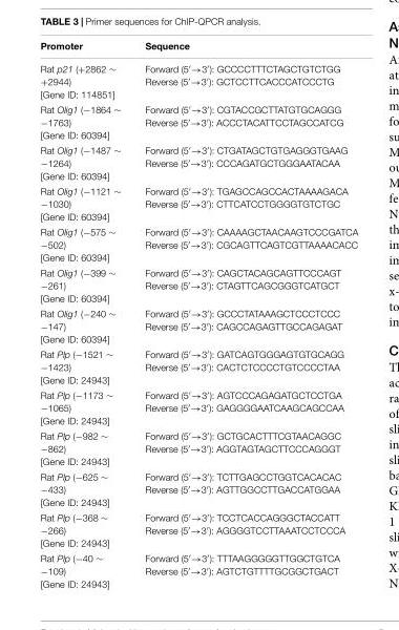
<table><thead><tr><td>Promoter</td><td>Sequence</td></tr></thead><tbody><tr><td>Rat p21 (+2862 ∼ +2944) [Gene ID: 114851]</td><td>Forward (5′→3′): GCCCCTTTCTAGCTGTCTGG Reverse (5′→3′): GCTCCTTCACCCATCCCTG</td></tr><tr><td>Rat Olig1 (−1864 ∼ −1763) [Gene ID: 60394]</td><td>Forward (5′→3′): CGTACCGCTTATGTGCAGGG Reverse (5′→3′): ACCCTACATTCCTAGCCATCG</td></tr><tr><td>Rat Olig1 (−1487 ∼ −1264) [Gene ID: 60394]</td><td>Forward (5′→3′): CTGATAGCTGTGAGGGTGAAG Reverse (5′→3′): CCCAGATGCTGGGAATACAA</td></tr><tr><td>Rat Olig1 (−1121 ∼ −1030) [Gene ID: 60394]</td><td>Forward (5′→3′): TGAGCCAGCCACTAAAAGACA Reverse (5′→3′): CTTCATCCTGGGGTGTCTGC</td></tr><tr><td>Rat Olig1 (−575 ∼ −502) [Gene ID: 60394]</td><td>Forward (5′→3′): CAAAAGCTAACAAGTCCCGATCA Reverse (5′→3′): CGCAGTTCAGTCGTTAAAACACC</td></tr><tr><td>Rat Olig1 (−399 ∼ −261) [Gene ID: 60394]</td><td>Forward (5′→3′): CAGCTACAGCAGTTCCCAGT Reverse (5′→3′): CTAGTTCAGCGGGTCATGCT</td></tr><tr><td>Rat Olig1 (−240 ∼ −147) [Gene ID: 60394]</td><td>Forward (5′→3′): GCCCTATAAAGCTCCCTCCC Reverse (5′→3′): CAGCCAGAGTTGCCAGAGAT</td></tr><tr><td>Rat Plp (−1521 ∼ −1423) [Gene ID: 24943]</td><td>Forward (5′→3′): GATCAGTGGGAGTGTGCAGG Reverse (5′→3′): CACTCTCCCCTGTCCCCTAA</td></tr><tr><td>Rat Plp (−1173 ∼ −1065) [Gene ID: 24943]</td><td>Forward (5′→3′): AGTCCCAGAGATGCTCCTGA Reverse (5′→3′): GAGGGGAATCAAGCAGCCAA</td></tr><tr><td>Rat Plp (−982 ∼ −862) [Gene ID: 24943]</td><td>Forward (5′→3′): GCTGCACTTTCGTAACAGGC Reverse (5′→3′): AGGTAGTAGCTTCCCAGGGT</td></tr><tr><td>Rat Plp (−625 ∼ −433) [Gene ID: 24943]</td><td>Forward (5′→3′): TCTTGAGCCTGGTCACACAC Reverse (5′→3′): AGTTGGCCTTGACCATGGAA</td></tr><tr><td>Rat Plp (−368 ∼ −266) [Gene ID: 24943]</td><td>Forward (5′→3′): TCCTCACCAGGGCTACCATT Reverse (5′→3′): AGGGGTCCTTAAATCCTCCCA</td></tr><tr><td>Rat Plp (−40 ∼ −109) [Gene ID: 24943]</td><td>Forward (5′→3′): TTTAAGGGGGTTGGCTGTCA Reverse (5′→3′): AGTCTGTTTTGCGGCTGACT</td></tr></tbody></table>